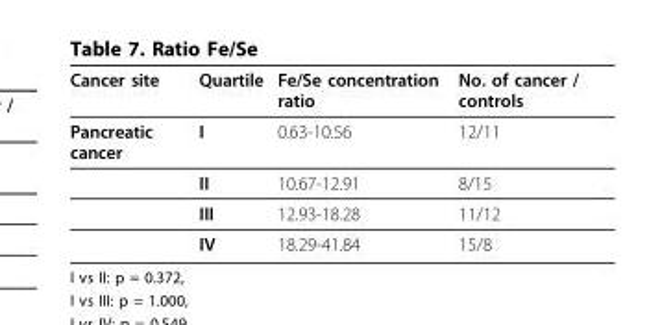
<table><thead><tr><td>Cancer site</td><td>Quartile</td><td>Fe/Se concentration ratio</td><td>No. of cancer / controls</td></tr></thead><tbody><tr><td rowspan="4">Pancreatic cancer</td><td>I</td><td>0.63-10.56</td><td>12/11</td></tr><tr><td>II</td><td>10.67-12.91</td><td>8/15</td></tr><tr><td>III</td><td>12.93-18.28</td><td>11/12</td></tr><tr><td>IV</td><td>18.29-41.84</td><td>15/8</td></tr></tbody></table>